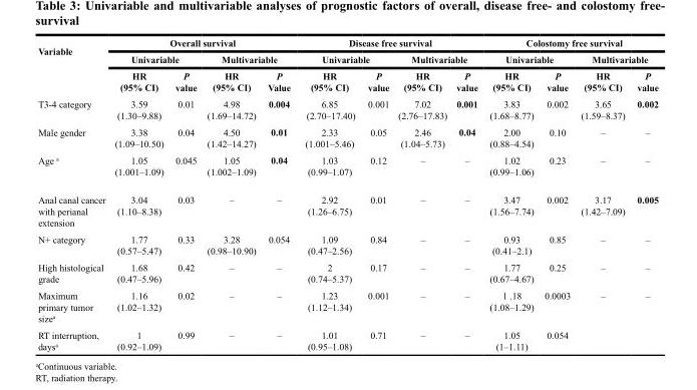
<table><thead><tr><td rowspan="3">Variable</td><td colspan="4">Overall survival</td><td colspan="4">Disease free survival</td><td colspan="4">Colostomy free survival</td></tr><tr><td colspan="2">Univariable</td><td colspan="2">Multivariable</td><td colspan="2">Univariable</td><td colspan="2">Multivariable</td><td colspan="2">Univariable</td><td colspan="2">Multivariable</td></tr><tr><td>HR (95% CI)</td><td>P value</td><td>HR (95% CI)</td><td>P Value</td><td>HR (95% CI)</td><td>P value</td><td>HR (95% CI)</td><td>P value</td><td>HR (95% CI)</td><td>P value</td><td>HR (95% CI)</td><td>P value</td></tr></thead><tbody><tr><td>T3-4 category</td><td>3.59 (1.30–9.88)</td><td>0.01</td><td>4.98 (1.69–14.72)</td><td>0.004</td><td>6.85 (2.70–17.40)</td><td>0.001</td><td>7.02 (2.76–17.83)</td><td>0.001</td><td>3.83 (1.68–8.77)</td><td>0.002</td><td>3.65 (1.59–8.37)</td><td>0.002</td></tr><tr><td>Male gender</td><td>3.38 (1.09–10.50)</td><td>0.04</td><td>4.50 (1.42–14.27)</td><td>0.01</td><td>2.33 (1.001–5.46)</td><td>0.05</td><td>2.46 (1.04–5.73)</td><td>0.04</td><td>2.00 (0.88–4.54)</td><td>0.10</td><td>–</td><td>–</td></tr><tr><td>Age <sup>a</sup></td><td>1.05 (1.001–1.09)</td><td>0.045</td><td>1.05 (1.002–1.09)</td><td>0.04</td><td>1.03 (0.99–1.07)</td><td>0.12</td><td>–</td><td>–</td><td>1.02 (0.99–1.06)</td><td>0.23</td><td>–</td><td>–</td></tr><tr><td>Anal canal cancer with perianal extension</td><td>3.04 (1.10–8.38)</td><td>0.03</td><td>–</td><td>–</td><td>2.92 (1.26–6.75)</td><td>0.01</td><td>–</td><td>–</td><td>3.47 (1.56–7.74)</td><td>0.002</td><td>3.17 (1.42–7.09)</td><td>0.005</td></tr><tr><td>N+ category</td><td>1.77 (0.57–5.47)</td><td>0.33</td><td>3.28 (0.98–10.90)</td><td>0.054</td><td>1.09 (0.47–2.56)</td><td>0.84</td><td>–</td><td>–</td><td>0.93 (0.41–2.1)</td><td>0.85</td><td>–</td><td>–</td></tr><tr><td>High histological grade</td><td>1.68 (0.47–5.96)</td><td>0.42</td><td>–</td><td>–</td><td>2 (0.74–5.37)</td><td>0.17</td><td>–</td><td>–</td><td>1.77 (0.67–4.67)</td><td>0.25</td><td>–</td><td>–</td></tr><tr><td>Maximum primary tumor size<sup>a</sup></td><td>1.16 (1.02–1.32)</td><td>0.02</td><td>–</td><td>–</td><td>1.23 (1.12–1.34)</td><td>0.001</td><td>–</td><td>–</td><td>1 .18 (1.08–1.29)</td><td>0.0003</td><td>–</td><td>–</td></tr><tr><td>RT interruption, days<sup>a</sup></td><td>1 (0.92–1.09)</td><td>0.99</td><td>–</td><td>–</td><td>1.01 (0.95–1.08)</td><td>0.71</td><td>–</td><td>–</td><td>1.05 (1–1.11)</td><td>0.054</td><td></td><td></td></tr></tbody></table>